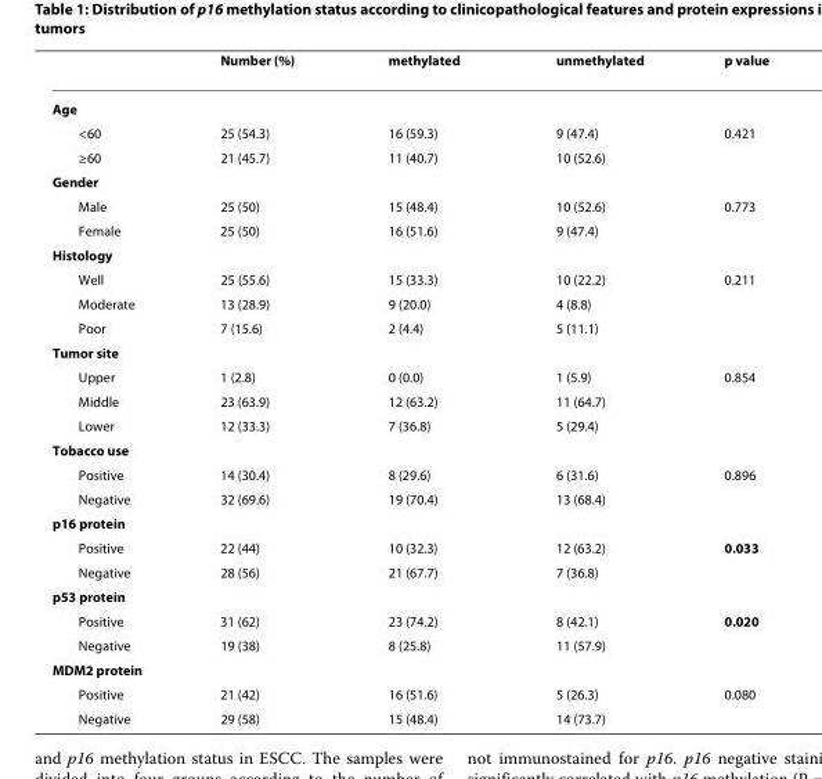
<table><thead><tr><td></td><td>Number (%)</td><td>methylated</td><td>unmethylated</td><td>p value</td></tr></thead><tbody><tr><td colspan="5">Age</td></tr><tr><td>&lt;60</td><td>25 (54.3)</td><td>16 (59.3)</td><td>9 (47.4)</td><td>0.421</td></tr><tr><td>≥60</td><td>21 (45.7)</td><td>11 (40.7)</td><td>10 (52.6)</td><td></td></tr><tr><td colspan="5">Gender</td></tr><tr><td>Male</td><td>25 (50)</td><td>15 (48.4)</td><td>10 (52.6)</td><td>0.773</td></tr><tr><td>Female</td><td>25 (50)</td><td>16 (51.6)</td><td>9 (47.4)</td><td></td></tr><tr><td colspan="5">Histology</td></tr><tr><td>Well</td><td>25 (55.6)</td><td>15 (33.3)</td><td>10 (22.2)</td><td>0.211</td></tr><tr><td>Moderate</td><td>13 (28.9)</td><td>9 (20.0)</td><td>4 (8.8)</td><td></td></tr><tr><td>Poor</td><td>7 (15.6)</td><td>2 (4.4)</td><td>5 (11.1)</td><td></td></tr><tr><td colspan="5">Tumor site</td></tr><tr><td>Upper</td><td>1 (2.8)</td><td>0 (0.0)</td><td>1 (5.9)</td><td>0.854</td></tr><tr><td>Middle</td><td>23 (63.9)</td><td>12 (63.2)</td><td>11 (64.7)</td><td></td></tr><tr><td>Lower</td><td>12 (33.3)</td><td>7 (36.8)</td><td>5 (29.4)</td><td></td></tr><tr><td colspan="5">Tobacco use</td></tr><tr><td>Positive</td><td>14 (30.4)</td><td>8 (29.6)</td><td>6 (31.6)</td><td>0.896</td></tr><tr><td>Negative</td><td>32 (69.6)</td><td>19 (70.4)</td><td>13 (68.4)</td><td></td></tr><tr><td colspan="5">p16 protein</td></tr><tr><td>Positive</td><td>22 (44)</td><td>10 (32.3)</td><td>12 (63.2)</td><td>0.033</td></tr><tr><td>Negative</td><td>28 (56)</td><td>21 (67.7)</td><td>7 (36.8)</td><td></td></tr><tr><td colspan="5">p53 protein</td></tr><tr><td>Positive</td><td>31 (62)</td><td>23 (74.2)</td><td>8 (42.1)</td><td>0.020</td></tr><tr><td>Negative</td><td>19 (38)</td><td>8 (25.8)</td><td>11 (57.9)</td><td></td></tr><tr><td colspan="5">MDM2 protein</td></tr><tr><td>Positive</td><td>21 (42)</td><td>16 (51.6)</td><td>5 (26.3)</td><td>0.080</td></tr><tr><td>Negative</td><td>29 (58)</td><td>15 (48.4)</td><td>14 (73.7)</td><td></td></tr></tbody></table>